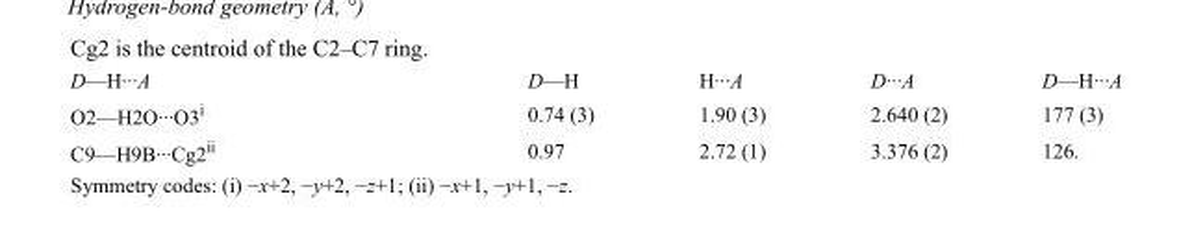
<table><tbody><tr><td>D—H···A</td><td>D—H</td><td>H···A</td><td>D···A</td><td>D—H···A</td></tr><tr><td>O2—H2O···O3<sup>i</sup></td><td>0.74 (3)</td><td>1.90 (3)</td><td>2.640 (2)</td><td>177 (3)</td></tr><tr><td>C9—H9B···Cg2<sup>ii</sup></td><td>0.97</td><td>2.72 (1)</td><td>3.376 (2)</td><td>126.</td></tr></tbody></table>